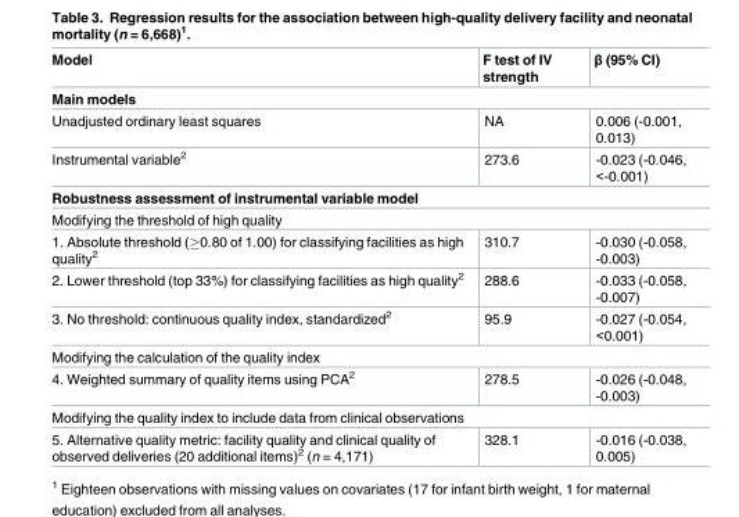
<table><thead><tr><td>Model</td><td>F test of IV strength</td><td>β (95% CI)</td></tr></thead><tbody><tr><td colspan="3">Main models</td></tr><tr><td>Unadjusted ordinary least squares</td><td>NA</td><td>0.006 (-0.001, 0.013)</td></tr><tr><td>Instrumental variable<sup>2</sup></td><td>273.6</td><td>-0.023 (-0.046, &lt;-0.001)</td></tr><tr><td colspan="3">Robustness assessment of instrumental variable model</td></tr><tr><td colspan="3">Modifying the threshold of high quality</td></tr><tr><td>1. Absolute threshold (≥0.80 of 1.00) for classifying facilities as high quality<sup>2</sup></td><td>310.7</td><td>-0.030 (-0.058, -0.003)</td></tr><tr><td>2. Lower threshold (top 33%) for classifying facilities as high quality<sup>2</sup></td><td>288.6</td><td>-0.033 (-0.058, -0.007)</td></tr><tr><td>3. No threshold: continuous quality index, standardized<sup>2</sup></td><td>95.9</td><td>-0.027 (-0.054, &lt;0.001)</td></tr><tr><td colspan="3">Modifying the calculation of the quality index</td></tr><tr><td>4. Weighted summary of quality items using PCA<sup>2</sup></td><td>278.5</td><td>-0.026 (-0.048, -0.003)</td></tr><tr><td colspan="3">Modifying the quality index to include data from clinical observations</td></tr><tr><td>5. Alternative quality metric: facility quality and clinical quality of observed deliveries (20 additional items)<sup>2</sup> (n = 4,171)</td><td>328.1</td><td>-0.016 (-0.038, 0.005)</td></tr></tbody></table>